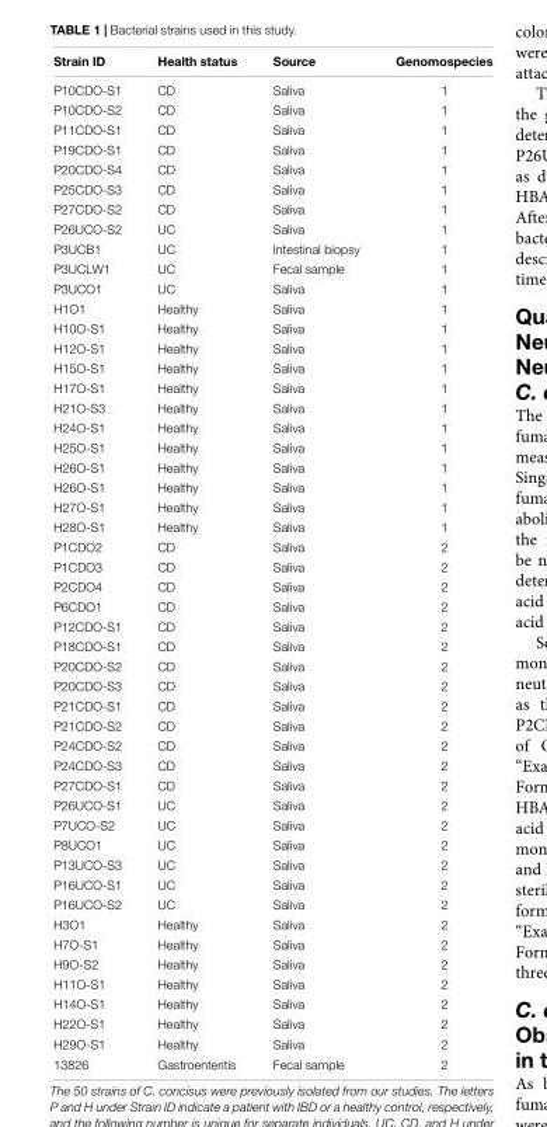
<table><thead><tr><td>Strain ID</td><td>Health status</td><td>Source</td><td>Genomospecies</td></tr></thead><tbody><tr><td>P10CDO-S1</td><td>CD</td><td>Saliva</td><td>1</td></tr><tr><td>P10CDO-S2</td><td>CD</td><td>Saliva</td><td>1</td></tr><tr><td>P11CDO-S1</td><td>CD</td><td>Saliva</td><td>1</td></tr><tr><td>P19CDO-S1</td><td>CD</td><td>Saliva</td><td>1</td></tr><tr><td>P20CDO-S4</td><td>CD</td><td>Saliva</td><td>1</td></tr><tr><td>P25CDO-S3</td><td>CD</td><td>Saliva</td><td>1</td></tr><tr><td>P27CDO-S2</td><td>CD</td><td>Saliva</td><td>1</td></tr><tr><td>P26UCO-S2</td><td>UC</td><td>Saliva</td><td>1</td></tr><tr><td>P3UCB1</td><td>UC</td><td>Intestinal biopsy</td><td>1</td></tr><tr><td>P3UCLW1</td><td>UC</td><td>Fecal sample</td><td>1</td></tr><tr><td>P3UCO1</td><td>UC</td><td>Saliva</td><td>1</td></tr><tr><td>H1O1</td><td>Healthy</td><td>Saliva</td><td>1</td></tr><tr><td>H10O-S1</td><td>Healthy</td><td>Saliva</td><td>1</td></tr><tr><td>H12O-S1</td><td>Healthy</td><td>Saliva</td><td>1</td></tr><tr><td>H15O-S1</td><td>Healthy</td><td>Saliva</td><td>1</td></tr><tr><td>H17O-S1</td><td>Healthy</td><td>Saliva</td><td>1</td></tr><tr><td>H21O-S3</td><td>Healthy</td><td>Saliva</td><td>1</td></tr><tr><td>H24O-S1</td><td>Healthy</td><td>Saliva</td><td>1</td></tr><tr><td>H25O-S1</td><td>Healthy</td><td>Saliva</td><td>1</td></tr><tr><td>H26O-S1</td><td>Healthy</td><td>Saliva</td><td>1</td></tr><tr><td>H26O-S1</td><td>Healthy</td><td>Saliva</td><td>1</td></tr><tr><td>H27O-S1</td><td>Healthy</td><td>Saliva</td><td>1</td></tr><tr><td>H28O-S1</td><td>Healthy</td><td>Saliva</td><td>1</td></tr><tr><td>P1CDO2</td><td>CD</td><td>Saliva</td><td>2</td></tr><tr><td>P1CDO3</td><td>CD</td><td>Saliva</td><td>2</td></tr><tr><td>P2CDO4</td><td>CD</td><td>Saliva</td><td>2</td></tr><tr><td>P6CDO1</td><td>CD</td><td>Saliva</td><td>2</td></tr><tr><td>P12CDO-S1</td><td>CD</td><td>Saliva</td><td>2</td></tr><tr><td>P18CDO-S1</td><td>CD</td><td>Saliva</td><td>2</td></tr><tr><td>P20CDO-S2</td><td>CD</td><td>Saliva</td><td>2</td></tr><tr><td>P20CDO-S3</td><td>CD</td><td>Saliva</td><td>2</td></tr><tr><td>P21CDO-S1</td><td>CD</td><td>Saliva</td><td>2</td></tr><tr><td>P21CDO-S2</td><td>CD</td><td>Saliva</td><td>2</td></tr><tr><td>P24CDO-S2</td><td>CD</td><td>Saliva</td><td>2</td></tr><tr><td>P24CDO-S3</td><td>CD</td><td>Saliva</td><td>2</td></tr><tr><td>P27CDO-S1</td><td>CD</td><td>Saliva</td><td>2</td></tr><tr><td>P26UCO-S1</td><td>UC</td><td>Saliva</td><td>2</td></tr><tr><td>P7UCO-S2</td><td>UC</td><td>Saliva</td><td>2</td></tr><tr><td>P8UCO1</td><td>UC</td><td>Saliva</td><td>2</td></tr><tr><td>P13UCO-S3</td><td>UC</td><td>Saliva</td><td>2</td></tr><tr><td>P16UCO-S1</td><td>UC</td><td>Saliva</td><td>2</td></tr><tr><td>P16UCO-S2</td><td>UC</td><td>Saliva</td><td>2</td></tr><tr><td>H3O1</td><td>Healthy</td><td>Saliva</td><td>2</td></tr><tr><td>H7O-S1</td><td>Healthy</td><td>Saliva</td><td>2</td></tr><tr><td>H9O-S2</td><td>Healthy</td><td>Saliva</td><td>2</td></tr><tr><td>H11O-S1</td><td>Healthy</td><td>Saliva</td><td>2</td></tr><tr><td>H14O-S1</td><td>Healthy</td><td>Saliva</td><td>2</td></tr><tr><td>H22O-S1</td><td>Healthy</td><td>Saliva</td><td>2</td></tr><tr><td>H29O-S1</td><td>Healthy</td><td>Saliva</td><td>2</td></tr><tr><td>13826</td><td>Gastroenteritis</td><td>Fecal sample</td><td>2</td></tr></tbody></table>